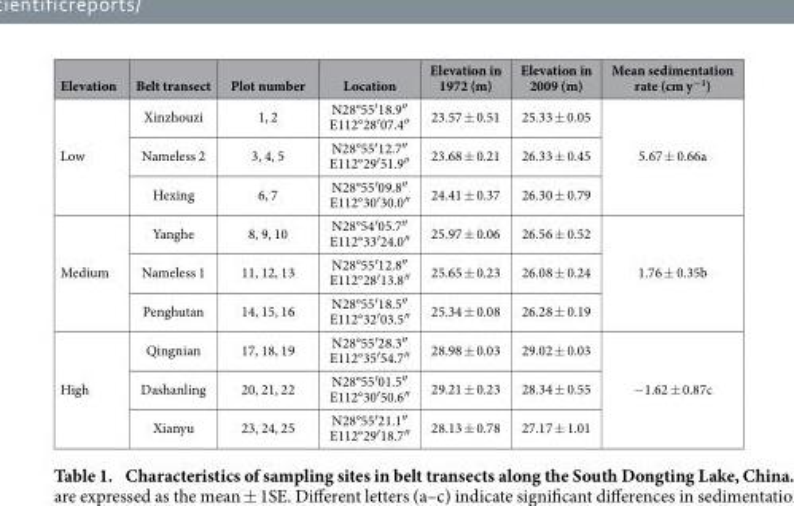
<table><thead><tr><td>Elevation</td><td>Belt transect</td><td>Plot number</td><td>Location</td><td>Elevation in 1972 (m)</td><td>Elevation in 2009 (m)</td><td>Mean sedimentation rate (cm y<sup>−1</sup>)</td></tr></thead><tbody><tr><td rowspan="3">Low</td><td>Xinzhouzi</td><td>1, 2</td><td>N28°55′ 18.9″ E112°28′ 07.4″</td><td>23.57 ± 0.51</td><td>25.33 ± 0.05</td><td rowspan="3">5.67 ± 0.66a</td></tr><tr><td>Nameless 2</td><td>3, 4, 5</td><td>N28°55′ 12.7″ E112°29′ 51.9″</td><td>23.68 ± 0.21</td><td>26.33 ± 0.45</td></tr><tr><td>Hexing</td><td>6, 7</td><td>N28°55′ 09.8″ E112°30′ 30.0″</td><td>24.41 ± 0.37</td><td>26.30 ± 0.79</td></tr><tr><td rowspan="3">Medium</td><td>Yanghe</td><td>8, 9, 10</td><td>N28°54′ 05.7″ E112°33′ 24.0″</td><td>25.97 ± 0.06</td><td>26.56 ± 0.52</td><td rowspan="3">1.76 ± 0.35b</td></tr><tr><td>Nameless 1</td><td>11, 12, 13</td><td>N28°55′ 12.8″ E112°28′ 13.8″</td><td>25.65 ± 0.23</td><td>26.08 ± 0.24</td></tr><tr><td>Penghutan</td><td>14, 15, 16</td><td>N28°55′ 18.5″ E112°32′ 03.5″</td><td>25.34 ± 0.08</td><td>26.28 ± 0.19</td></tr><tr><td rowspan="3">High</td><td>Qingnian</td><td>17, 18, 19</td><td>N28°55′ 28.3″ E112°35′ 54.7″</td><td>28.98 ± 0.03</td><td>29.02 ± 0.03</td><td rowspan="3">− 1.62 ± 0.87c</td></tr><tr><td>Dashanling</td><td>20, 21, 22</td><td>N28°55′ 01.5″ E112°30′ 50.6″</td><td>29.21 ± 0.23</td><td>28.34 ± 0.55</td></tr><tr><td>Xianyu</td><td>23, 24, 25</td><td>N28°55′ 21.1″ E112°29′ 18.7″</td><td>28.13 ± 0.78</td><td>27.17 ± 1.01</td></tr></tbody></table>